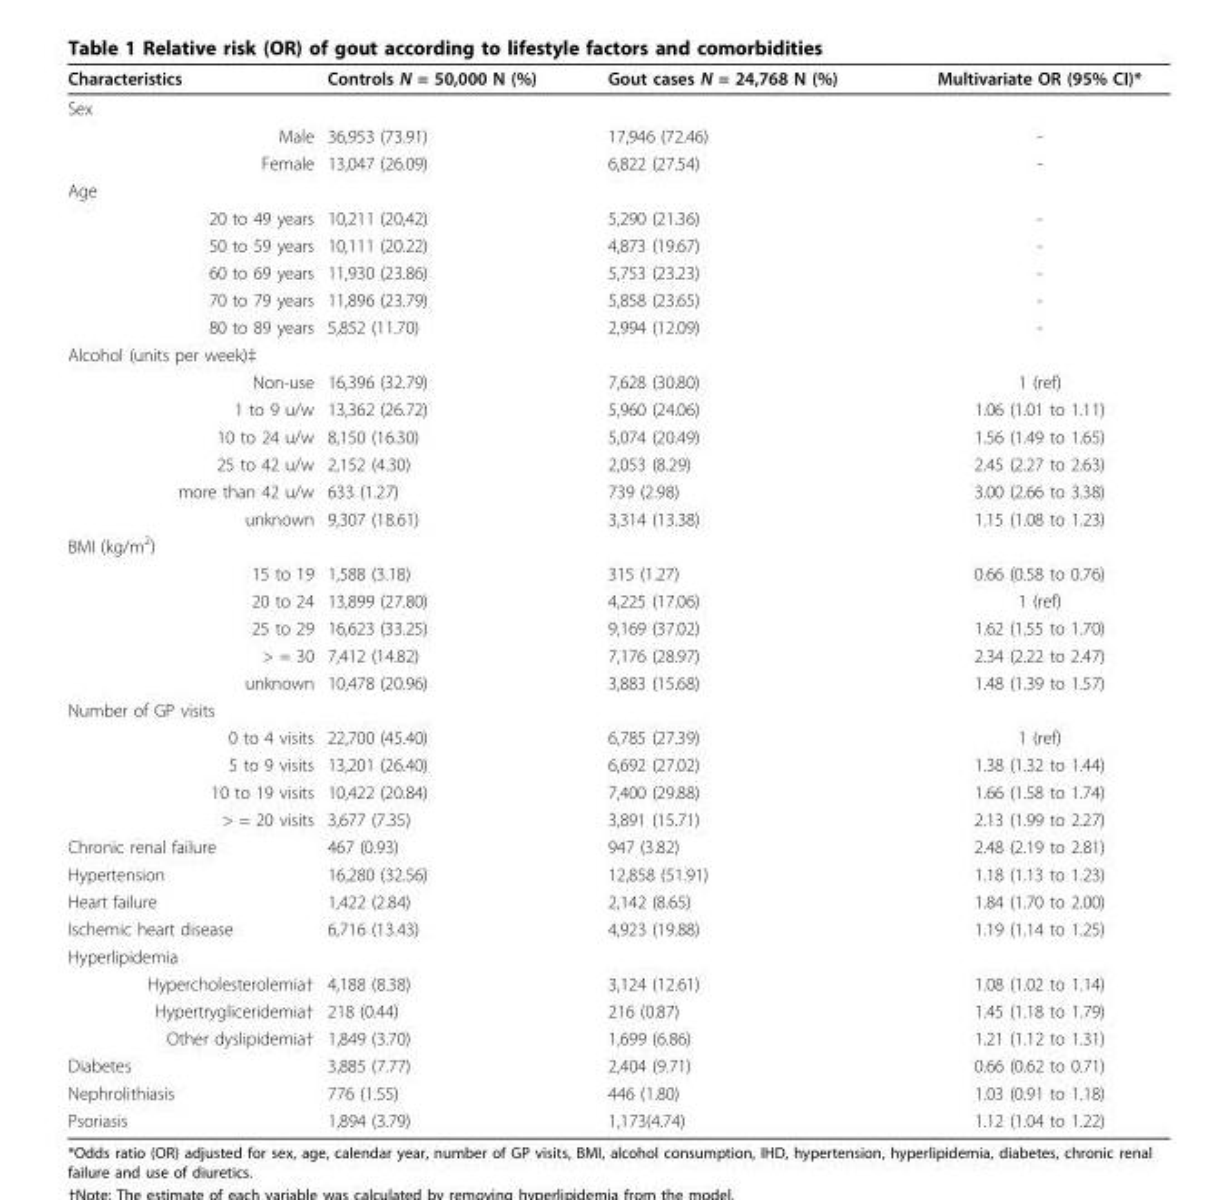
<table><thead><tr><td>Characteristics</td><td>Controls N = 50,000 N (%)</td><td>Gout cases N = 24,768 N (%)</td><td>Multivariate OR (95% CI)*</td></tr></thead><tbody><tr><td colspan="4">Sex</td></tr><tr><td>Male</td><td>36,953 (73.91)</td><td>17,946 (72.46)</td><td>-</td></tr><tr><td>Female</td><td>13,047 (26.09)</td><td>6,822 (27.54)</td><td>-</td></tr><tr><td colspan="4">Age</td></tr><tr><td>20 to 49 years</td><td>10,211 (20,42)</td><td>5,290 (21.36)</td><td>-</td></tr><tr><td>50 to 59 years</td><td>10,111 (20.22)</td><td>4,873 (19.67)</td><td>-</td></tr><tr><td>60 to 69 years</td><td>11,930 (23.86)</td><td>5,753 (23.23)</td><td>-</td></tr><tr><td>70 to 79 years</td><td>11,896 (23.79)</td><td>5,858 (23.65)</td><td>-</td></tr><tr><td>80 to 89 years</td><td>5,852 (11.70)</td><td>2,994 (12.09)</td><td>-</td></tr><tr><td colspan="4">Alcohol (units per week)‡</td></tr><tr><td>Non-use</td><td>16,396 (32.79)</td><td>7,628 (30.80)</td><td>1 (ref)</td></tr><tr><td>1 to 9 u/w</td><td>13,362 (26.72)</td><td>5,960 (24.06)</td><td>1.06 (1.01 to 1.11)</td></tr><tr><td>10 to 24 u/w</td><td>8,150 (16.30)</td><td>5,074 (20.49)</td><td>1.56 (1.49 to 1.65)</td></tr><tr><td>25 to 42 u/w</td><td>2,152 (4.30)</td><td>2,053 (8.29)</td><td>2.45 (2.27 to 2.63)</td></tr><tr><td>more than 42 u/w</td><td>633 (1.27)</td><td>739 (2.98)</td><td>3.00 (2.66 to 3.38)</td></tr><tr><td>unknown</td><td>9,307 (18.61)</td><td>3,314 (13.38)</td><td>1.15 (1.08 to 1.23)</td></tr><tr><td colspan="4">BMI (kg/m<sup>2</sup>)</td></tr><tr><td>15 to 19</td><td>1,588 (3.18)</td><td>315 (1.27)</td><td>0.66 (0.58 to 0.76)</td></tr><tr><td>20 to 24</td><td>13,899 (27.80)</td><td>4,225 (17.06)</td><td>1 (ref)</td></tr><tr><td>25 to 29</td><td>16,623 (33.25)</td><td>9,169 (37.02)</td><td>1.62 (1.55 to 1.70)</td></tr><tr><td>&gt; = 30</td><td>7,412 (14.82)</td><td>7,176 (28.97)</td><td>2.34 (2.22 to 2.47)</td></tr><tr><td>unknown</td><td>10,478 (20.96)</td><td>3,883 (15.68)</td><td>1.48 (1.39 to 1.57)</td></tr><tr><td colspan="4">Number of GP visits</td></tr><tr><td>0 to 4 visits</td><td>22,700 (45.40)</td><td>6,785 (27.39)</td><td>1 (ref)</td></tr><tr><td>5 to 9 visits</td><td>13,201 (26.40)</td><td>6,692 (27.02)</td><td>1.38 (1.32 to 1.44)</td></tr><tr><td>10 to 19 visits</td><td>10,422 (20.84)</td><td>7,400 (29.88)</td><td>1.66 (1.58 to 1.74)</td></tr><tr><td>&gt; = 20 visits</td><td>3,677 (7.35)</td><td>3,891 (15.71)</td><td>2.13 (1.99 to 2.27)</td></tr><tr><td>Chronic renal failure</td><td>467 (0.93)</td><td>947 (3.82)</td><td>2.48 (2.19 to 2.81)</td></tr><tr><td>Hypertension</td><td>16,280 (32.56)</td><td>12,858 (51.91)</td><td>1.18 (1.13 to 1.23)</td></tr><tr><td>Heart failure</td><td>1,422 (2.84)</td><td>2,142 (8.65)</td><td>1.84 (1.70 to 2.00)</td></tr><tr><td>Ischemic heart disease</td><td>6,716 (13.43)</td><td>4,923 (19.88)</td><td>1.19 (1.14 to 1.25)</td></tr><tr><td colspan="4">Hyperlipidemia</td></tr><tr><td>Hypercholesterolemia†</td><td>4,188 (8.38)</td><td>3,124 (12.61)</td><td>1.08 (1.02 to 1.14)</td></tr><tr><td>Hypertrygliceridemia†</td><td>218 (0.44)</td><td>216 (0.87)</td><td>1.45 (1.18 to 1.79)</td></tr><tr><td>Other dyslipidemia†</td><td>1,849 (3.70)</td><td>1,699 (6.86)</td><td>1.21 (1.12 to 1.31)</td></tr><tr><td>Diabetes</td><td>3,885 (7.77)</td><td>2,404 (9.71)</td><td>0.66 (0.62 to 0.71)</td></tr><tr><td>Nephrolithiasis</td><td>776 (1.55)</td><td>446 (1.80)</td><td>1.03 (0.91 to 1.18)</td></tr><tr><td>Psoriasis</td><td>1,894 (3.79)</td><td>1,173(4.74)</td><td>1.12 (1.04 to 1.22)</td></tr></tbody></table>